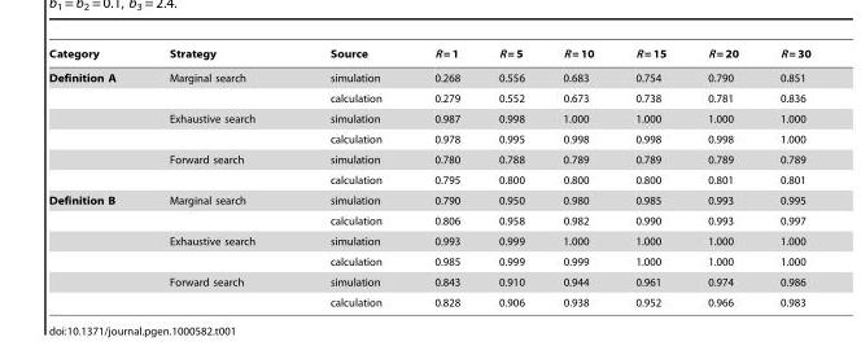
<table><thead><tr><td>Category</td><td>Strategy</td><td>Source</td><td>R = 1</td><td>R = 5</td><td>R = 10</td><td>R = 15</td><td>R = 20</td><td>R = 30</td></tr></thead><tbody><tr><td rowspan="6">Definition A</td><td>Marginal search</td><td>simulation</td><td>0.268</td><td>0.556</td><td>0.683</td><td>0.754</td><td>0.790</td><td>0.851</td></tr><tr><td></td><td>calculation</td><td>0.279</td><td>0.552</td><td>0.673</td><td>0.738</td><td>0.781</td><td>0.836</td></tr><tr><td>Exhaustive search</td><td>simulation</td><td>0.987</td><td>0.998</td><td>1.000</td><td>1.000</td><td>1.000</td><td>1.000</td></tr><tr><td></td><td>calculation</td><td>0.978</td><td>0.995</td><td>0.998</td><td>0.998</td><td>0.998</td><td>1.000</td></tr><tr><td>Forward search</td><td>simulation</td><td>0.780</td><td>0.788</td><td>0.789</td><td>0.789</td><td>0.789</td><td>0.789</td></tr><tr><td></td><td>calculation</td><td>0.795</td><td>0.800</td><td>0.800</td><td>0.800</td><td>0.801</td><td>0.801</td></tr><tr><td rowspan="6">Definition B</td><td>Marginal search</td><td>simulation</td><td>0.790</td><td>0.950</td><td>0.980</td><td>0.985</td><td>0.993</td><td>0.995</td></tr><tr><td></td><td>calculation</td><td>0.806</td><td>0.958</td><td>0.982</td><td>0.990</td><td>0.993</td><td>0.997</td></tr><tr><td>Exhaustive search</td><td>simulation</td><td>0.993</td><td>0.999</td><td>1.000</td><td>1.000</td><td>1.000</td><td>1.000</td></tr><tr><td></td><td>calculation</td><td>0.985</td><td>0.999</td><td>0.999</td><td>1.000</td><td>1.000</td><td>1.000</td></tr><tr><td>Forward search</td><td>simulation</td><td>0.843</td><td>0.910</td><td>0.944</td><td>0.961</td><td>0.974</td><td>0.986</td></tr><tr><td></td><td>calculation</td><td>0.828</td><td>0.906</td><td>0.938</td><td>0.952</td><td>0.966</td><td>0.983</td></tr></tbody></table>